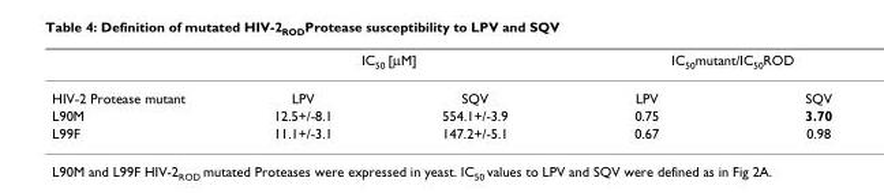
<table><thead><tr><td rowspan="2">HIV-2 Protease mutant</td><td colspan="2">IC<sub>50</sub> [μM]</td><td colspan="2">IC<sub>50</sub>mutant/IC<sub>50</sub>ROD</td></tr><tr><td>LPV</td><td>SQV</td><td>LPV</td><td>SQV</td></tr></thead><tbody><tr><td>L90M</td><td>12.5+/-8.1</td><td>554.1+/-3.9</td><td>0.75</td><td>3.70</td></tr><tr><td>L99F</td><td>11.1+/-3.1</td><td>147.2+/-5.1</td><td>0.67</td><td>0.98</td></tr></tbody></table>